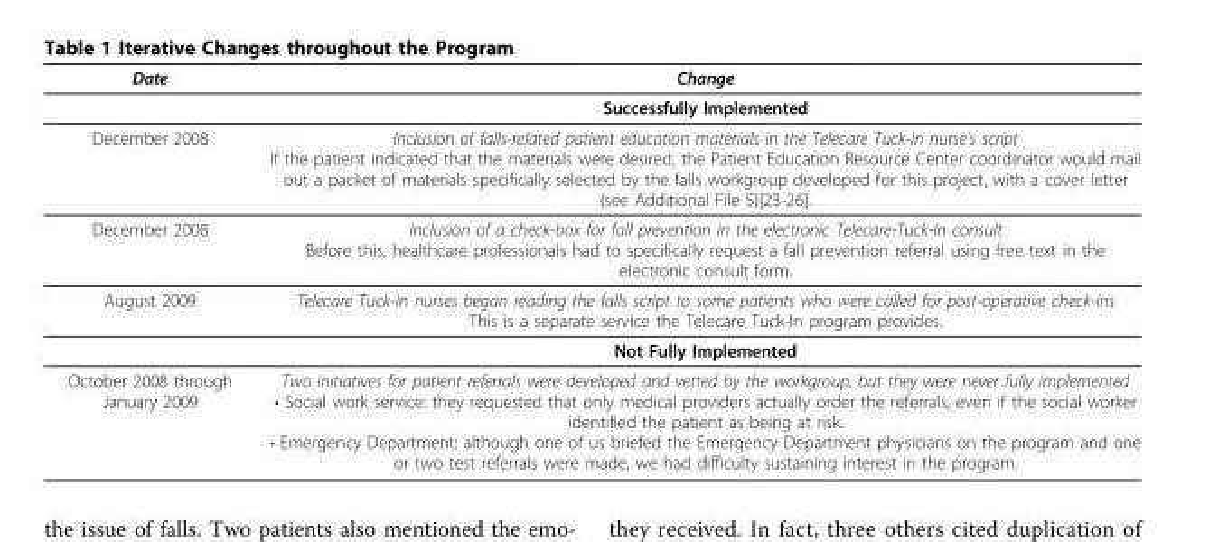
<table><thead><tr><td>Date</td><td>Change</td></tr></thead><tbody><tr><td></td><td>Successfully Implemented</td></tr><tr><td>December 2008</td><td>Inclusion of falls-related patient education materials in the Telecare Tuck-In nurse’s script If the patient indicated that the materials were desired, the Patient Education Resource Center coordinator would mail out a packet of materials specifically selected by the falls workgroup developed for this project, with a cover letter (see Additional File 5)[23-26].</td></tr><tr><td>December 2008</td><td>Inclusion of a check-box for fall prevention in the electronic Telecare-Tuck-In consult Before this, healthcare professionals had to specifically request a fall prevention referral using free text in the electronic consult form.</td></tr><tr><td rowspan="2">August 2009</td><td>Telecare Tuck-In nurses began reading the falls script to some patients who were called for post-operative check-ins This is a separate service the Telecare Tuck-In program provides.</td></tr><tr><td>Not Fully Implemented</td></tr><tr><td>October 2008 through January 2009</td><td>Two initiatives for patient referrals were developed and vetted by the workgroup, but they were never fully implemented • Social work service: they requested that only medical providers actually order the referrals, even if the social worker identified the patient as being at risk. • Emergency Department: although one of us briefed the Emergency Department physicians on the program and one or two test referrals were made, we had difficulty sustaining interest in the program.</td></tr></tbody></table>